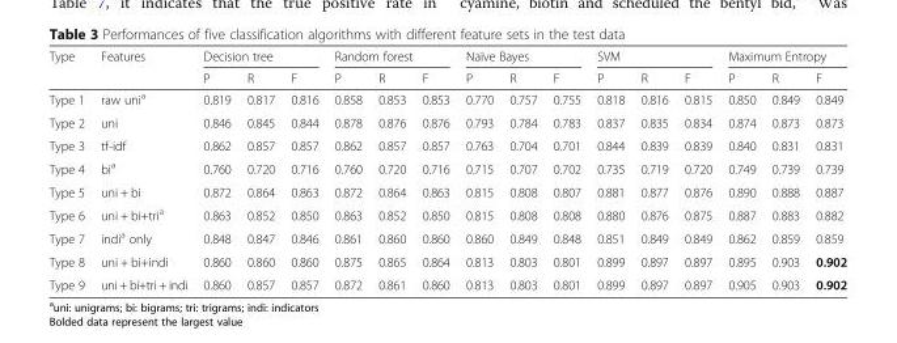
<table><thead><tr><td rowspan="2">Type</td><td rowspan="2">Features</td><td colspan="3">Decision tree</td><td colspan="3">Random forest</td><td colspan="3">Naïve Bayes</td><td colspan="3">SVM</td><td colspan="3">Maximum Entropy</td></tr><tr><td>P</td><td>R</td><td>F</td><td>P</td><td>R</td><td>F</td><td>P</td><td>R</td><td>F</td><td>P</td><td>R</td><td>F</td><td>P</td><td>R</td><td>F</td></tr></thead><tbody><tr><td>Type 1</td><td>raw uni<sup>a</sup></td><td>0.819</td><td>0.817</td><td>0.816</td><td>0.858</td><td>0.853</td><td>0.853</td><td>0.770</td><td>0.757</td><td>0.755</td><td>0.818</td><td>0.816</td><td>0.815</td><td>0.850</td><td>0.849</td><td>0.849</td></tr><tr><td>Type 2</td><td>uni</td><td>0.846</td><td>0.845</td><td>0.844</td><td>0.878</td><td>0.876</td><td>0.876</td><td>0.793</td><td>0.784</td><td>0.783</td><td>0.837</td><td>0.835</td><td>0.834</td><td>0.874</td><td>0.873</td><td>0.873</td></tr><tr><td>Type 3</td><td>tf-idf</td><td>0.862</td><td>0.857</td><td>0.857</td><td>0.862</td><td>0.857</td><td>0.857</td><td>0.763</td><td>0.704</td><td>0.701</td><td>0.844</td><td>0.839</td><td>0.839</td><td>0.840</td><td>0.831</td><td>0.831</td></tr><tr><td>Type 4</td><td>bi<sup>a</sup></td><td>0.760</td><td>0.720</td><td>0.716</td><td>0.760</td><td>0.720</td><td>0.716</td><td>0.715</td><td>0.707</td><td>0.702</td><td>0.735</td><td>0.719</td><td>0.720</td><td>0.749</td><td>0.739</td><td>0.739</td></tr><tr><td>Type 5</td><td>uni + bi</td><td>0.872</td><td>0.864</td><td>0.863</td><td>0.872</td><td>0.864</td><td>0.863</td><td>0.815</td><td>0.808</td><td>0.807</td><td>0.881</td><td>0.877</td><td>0.876</td><td>0.890</td><td>0.888</td><td>0.887</td></tr><tr><td>Type 6</td><td>uni + bi+tri<sup>a</sup></td><td>0.863</td><td>0.852</td><td>0.850</td><td>0.863</td><td>0.852</td><td>0.850</td><td>0.815</td><td>0.808</td><td>0.808</td><td>0.880</td><td>0.876</td><td>0.875</td><td>0.887</td><td>0.883</td><td>0.882</td></tr><tr><td>Type 7</td><td>indi<sup>a</sup> only</td><td>0.848</td><td>0.847</td><td>0.846</td><td>0.861</td><td>0.860</td><td>0.860</td><td>0.860</td><td>0.849</td><td>0.848</td><td>0.851</td><td>0.849</td><td>0.849</td><td>0.862</td><td>0.859</td><td>0.859</td></tr><tr><td>Type 8</td><td>uni + bi+indi</td><td>0.860</td><td>0.860</td><td>0.860</td><td>0.875</td><td>0.865</td><td>0.864</td><td>0.813</td><td>0.803</td><td>0.801</td><td>0.899</td><td>0.897</td><td>0.897</td><td>0.895</td><td>0.903</td><td>0.902</td></tr><tr><td>Type 9</td><td>uni + bi+tri + indi</td><td>0.860</td><td>0.857</td><td>0.857</td><td>0.872</td><td>0.861</td><td>0.860</td><td>0.813</td><td>0.803</td><td>0.801</td><td>0.899</td><td>0.897</td><td>0.897</td><td>0.905</td><td>0.903</td><td>0.902</td></tr></tbody></table>